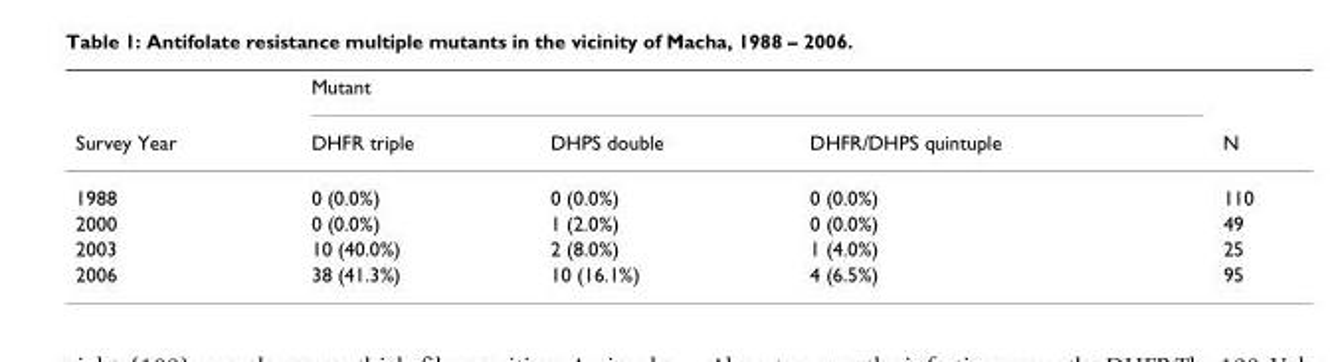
<table><thead><tr><td rowspan="2">Survey Year</td><td colspan="3">Mutant</td><td rowspan="2">N</td></tr><tr><td>DHFR triple</td><td>DHPS double</td><td>DHFR/DHPS quintuple</td></tr></thead><tbody><tr><td>1988</td><td>0 (0.0%)</td><td>0 (0.0%)</td><td>0 (0.0%)</td><td>110</td></tr><tr><td>2000</td><td>0 (0.0%)</td><td>1 (2.0%)</td><td>0 (0.0%)</td><td>49</td></tr><tr><td>2003</td><td>10 (40.0%)</td><td>2 (8.0%)</td><td>1 (4.0%)</td><td>25</td></tr><tr><td>2006</td><td>38 (41.3%)</td><td>10 (16.1%)</td><td>4 (6.5%)</td><td>95</td></tr></tbody></table>